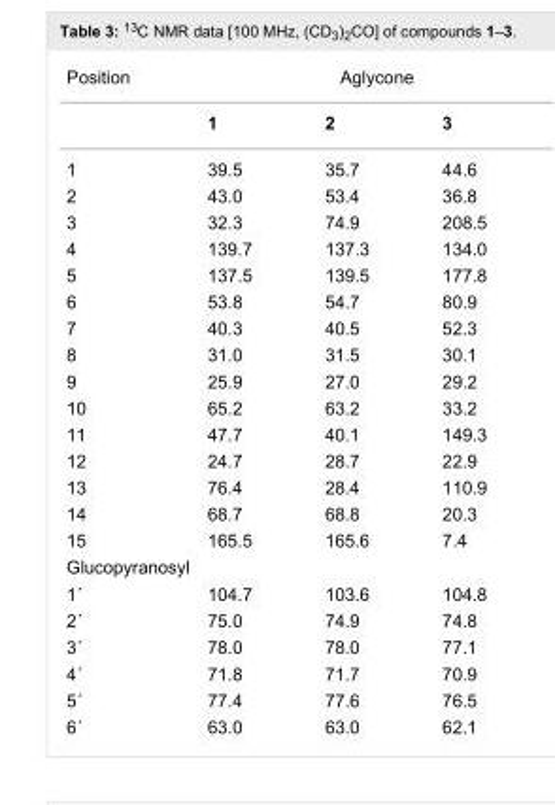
<table><tbody><tr><td rowspan="2">Position</td><td colspan="3">Aglycone</td></tr><tr><td>1</td><td>2</td><td>3</td></tr><tr><td>1</td><td>39.5</td><td>35.7</td><td>44.6</td></tr><tr><td>2</td><td>43.0</td><td>53.4</td><td>36.8</td></tr><tr><td>3</td><td>32.3</td><td>74.9</td><td>208.5</td></tr><tr><td>4</td><td>139.7</td><td>137.3</td><td>134.0</td></tr><tr><td>5</td><td>137.5</td><td>139.5</td><td>177.8</td></tr><tr><td>6</td><td>53.8</td><td>54.7</td><td>80.9</td></tr><tr><td>7</td><td>40.3</td><td>40.5</td><td>52.3</td></tr><tr><td>8</td><td>31.0</td><td>31.5</td><td>30.1</td></tr><tr><td>9</td><td>25.9</td><td>27.0</td><td>29.2</td></tr><tr><td>10</td><td>65.2</td><td>63.2</td><td>33.2</td></tr><tr><td>11</td><td>47.7</td><td>40.1</td><td>149.3</td></tr><tr><td>12</td><td>24.7</td><td>28.7</td><td>22.9</td></tr><tr><td>13</td><td>76.4</td><td>28.4</td><td>110.9</td></tr><tr><td>14</td><td>68.7</td><td>68.8</td><td>20.3</td></tr><tr><td>15</td><td>165.5</td><td>165.6</td><td>7.4</td></tr><tr><td colspan="4">Glucopyranosyl</td></tr><tr><td>1´</td><td>104.7</td><td>103.6</td><td>104.8</td></tr><tr><td>2´</td><td>75.0</td><td>74.9</td><td>74.8</td></tr><tr><td>3´</td><td>78.0</td><td>78.0</td><td>77.1</td></tr><tr><td>4´</td><td>71.8</td><td>71.7</td><td>70.9</td></tr><tr><td>5´</td><td>77.4</td><td>77.6</td><td>76.5</td></tr><tr><td>6´</td><td>63.0</td><td>63.0</td><td>62.1</td></tr></tbody></table>